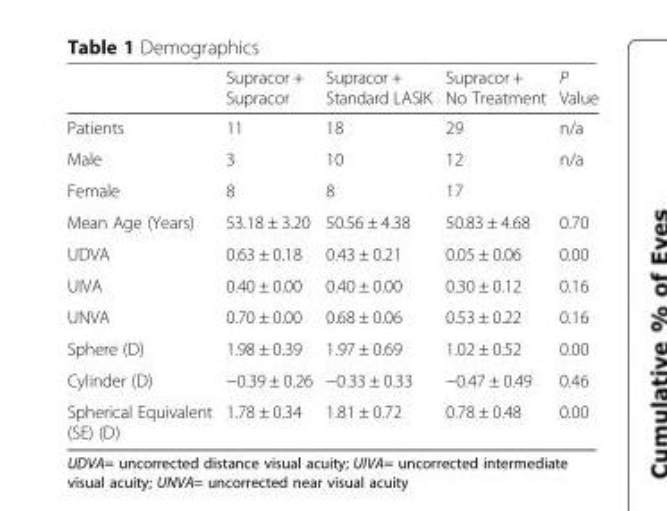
<table><thead><tr><td></td><td>Supracor + Supracor</td><td>Supracor + Standard LASIK</td><td>Supracor + No Treatment</td><td>P Value</td></tr></thead><tbody><tr><td>Patients</td><td>11</td><td>18</td><td>29</td><td>n/a</td></tr><tr><td>Male</td><td>3</td><td>10</td><td>12</td><td rowspan="2">n/a</td></tr><tr><td>Female</td><td>8</td><td>8</td><td>17</td></tr><tr><td>Mean Age (Years)</td><td>53.18 ± 3.20</td><td>50.56 ± 4.38</td><td>50.83 ± 4.68</td><td>0.70</td></tr><tr><td>UDVA</td><td>0.63 ± 0.18</td><td>0.43 ± 0.21</td><td>0.05 ± 0.06</td><td>0.00</td></tr><tr><td>UIVA</td><td>0.40 ± 0.00</td><td>0.40 ± 0.00</td><td>0.30 ± 0.12</td><td>0.16</td></tr><tr><td>UNVA</td><td>0.70 ± 0.00</td><td>0.68 ± 0.06</td><td>0.53 ± 0.22</td><td>0.16</td></tr><tr><td>Sphere (D)</td><td>1.98 ± 0.39</td><td>1.97 ± 0.69</td><td>1.02 ± 0.52</td><td>0.00</td></tr><tr><td>Cylinder (D)</td><td>−0.39 ± 0.26</td><td>−0.33 ± 0.33</td><td>−0.47 ± 0.49</td><td>0.46</td></tr><tr><td>Spherical Equivalent (SE) (D)</td><td>1.78 ± 0.34</td><td>1.81 ± 0.72</td><td>0.78 ± 0.48</td><td>0.00</td></tr></tbody></table>